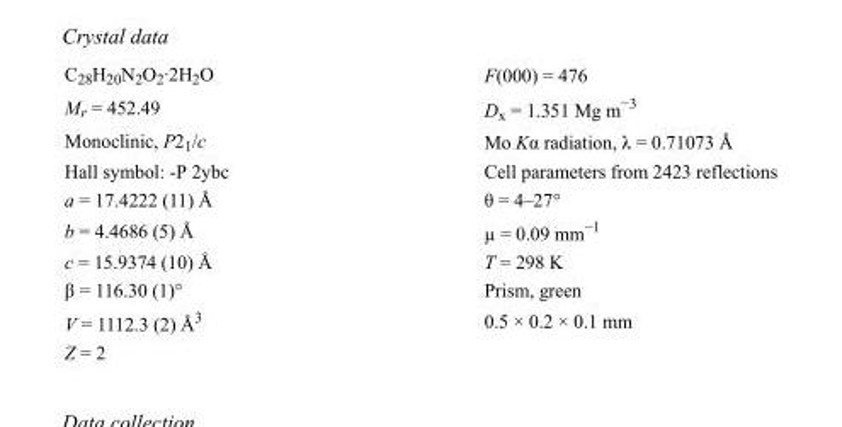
<table><tbody><tr><td>C<sub>28</sub>H<sub>20</sub>N<sub>2</sub>O<sub>2</sub>·2H<sub>2</sub>O</td><td>F(000) = 476</td></tr><tr><td>M<sub>r</sub> = 452.49</td><td>D<sub>x</sub> = 1.351 Mg m<sup>−3</sup></td></tr><tr><td>Monoclinic, P2<sub>1</sub>/c</td><td>Mo Kα radiation, λ = 0.71073 Å</td></tr><tr><td>Hall symbol: -P 2ybc</td><td>Cell parameters from 2423 reflections</td></tr><tr><td>a = 17.4222 (11) Å</td><td>θ = 4–27°</td></tr><tr><td>b = 4.4686 (5) Å</td><td>µ = 0.09 mm<sup>−1</sup></td></tr><tr><td>c = 15.9374 (10) Å</td><td>T = 298 K</td></tr><tr><td>β = 116.30 (1)°</td><td>Prism, green</td></tr><tr><td>V = 1112.3 (2) Å<sup>3</sup></td><td>0.5 × 0.2 × 0.1 mm</td></tr><tr><td>Z = 2</td><td></td></tr></tbody></table>